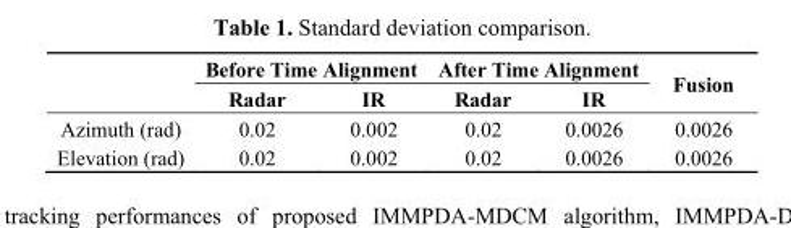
<table><thead><tr><td rowspan="2"></td><td colspan="2">Before Time Alignment</td><td colspan="2">After Time Alignment</td><td rowspan="2">Fusion</td></tr><tr><td>Radar</td><td>IR</td><td>Radar</td><td>IR</td></tr></thead><tbody><tr><td>Azimuth (rad)</td><td>0.02</td><td>0.002</td><td>0.02</td><td>0.0026</td><td>0.0026</td></tr><tr><td>Elevation (rad)</td><td>0.02</td><td>0.002</td><td>0.02</td><td>0.0026</td><td>0.0026</td></tr></tbody></table>